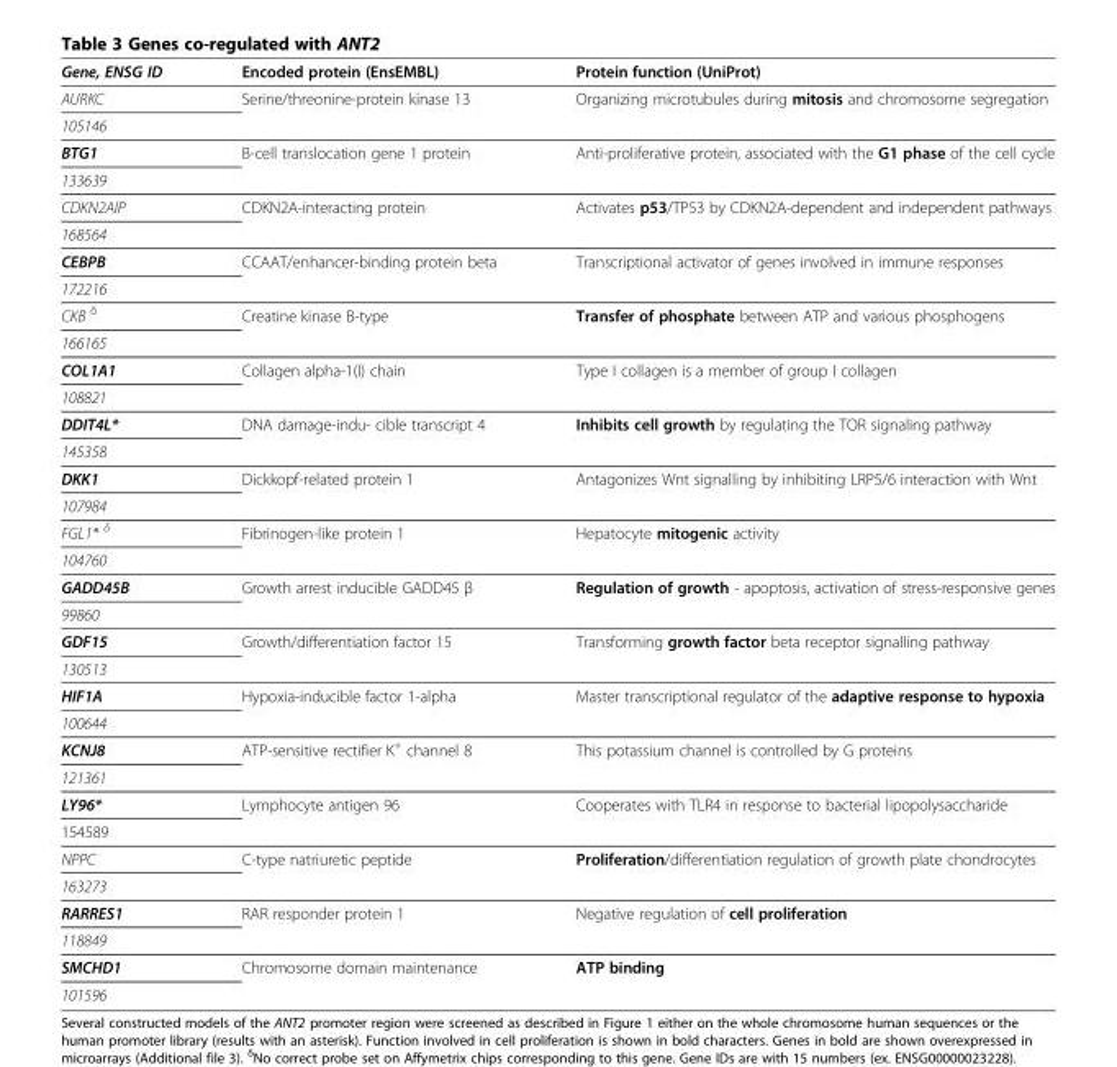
<table><thead><tr><td>Gene, ENSG ID</td><td>Encoded protein (EnsEMBL)</td><td>Protein function (UniProt)</td></tr></thead><tbody><tr><td>AURKC</td><td>Serine/threonine-protein kinase 13</td><td rowspan="2">Organizing microtubules during mitosis and chromosome segregation</td></tr><tr><td colspan="2">105146</td></tr><tr><td>BTG1</td><td>B-cell translocation gene 1 protein</td><td rowspan="2">Anti-proliferative protein, associated with the G1 phase of the cell cycle</td></tr><tr><td colspan="2">133639</td></tr><tr><td>CDKN2AIP</td><td>CDKN2A-interacting protein</td><td rowspan="2">Activates p53/TP53 by CDKN2A-dependent and independent pathways</td></tr><tr><td colspan="2">168564</td></tr><tr><td>CEBPB</td><td>CCAAT/enhancer-binding protein beta</td><td rowspan="2">Transcriptional activator of genes involved in immune responses</td></tr><tr><td colspan="2">172216</td></tr><tr><td>CKB <sup>δ</sup></td><td>Creatine kinase B-type</td><td rowspan="2">Transfer of phosphate between ATP and various phosphogens</td></tr><tr><td colspan="2">166165</td></tr><tr><td>COL1A1</td><td>Collagen alpha-1(I) chain</td><td rowspan="2">Type I collagen is a member of group I collagen</td></tr><tr><td colspan="2">108821</td></tr><tr><td>DDIT4L*</td><td>DNA damage-indu- cible transcript 4</td><td rowspan="2">Inhibits cell growth by regulating the TOR signaling pathway</td></tr><tr><td colspan="2">145358</td></tr><tr><td>DKK1</td><td>Dickkopf-related protein 1</td><td rowspan="2">Antagonizes Wnt signalling by inhibiting LRP5/6 interaction with Wnt</td></tr><tr><td colspan="2">107984</td></tr><tr><td>FGL1* <sup>δ</sup></td><td>Fibrinogen-like protein 1</td><td rowspan="2">Hepatocyte mitogenic activity</td></tr><tr><td colspan="2">104760</td></tr><tr><td>GADD45B</td><td>Growth arrest inducible GADD45 β</td><td rowspan="2">Regulation of growth - apoptosis, activation of stress-responsive genes</td></tr><tr><td colspan="2">99860</td></tr><tr><td>GDF15</td><td>Growth/differentiation factor 15</td><td rowspan="2">Transforming growth factor beta receptor signalling pathway</td></tr><tr><td colspan="2">130513</td></tr><tr><td>HIF1A</td><td>Hypoxia-inducible factor 1-alpha</td><td rowspan="2">Master transcriptional regulator of the adaptive response to hypoxia</td></tr><tr><td colspan="2">100644</td></tr><tr><td>KCNJ8</td><td>ATP-sensitive rectifier K<sup>+</sup> channel 8</td><td rowspan="2">This potassium channel is controlled by G proteins</td></tr><tr><td colspan="2">121361</td></tr><tr><td>LY96*</td><td>Lymphocyte antigen 96</td><td rowspan="2">Cooperates with TLR4 in response to bacterial lipopolysaccharide</td></tr><tr><td colspan="2">154589</td></tr><tr><td>NPPC</td><td>C-type natriuretic peptide</td><td rowspan="2">Proliferation/differentiation regulation of growth plate chondrocytes</td></tr><tr><td colspan="2">163273</td></tr><tr><td>RARRES1</td><td>RAR responder protein 1</td><td rowspan="2">Negative regulation of cell proliferation</td></tr><tr><td colspan="2">118849</td></tr><tr><td>SMCHD1</td><td>Chromosome domain maintenance</td><td rowspan="2">ATP binding</td></tr><tr><td>101596</td><td></td></tr></tbody></table>